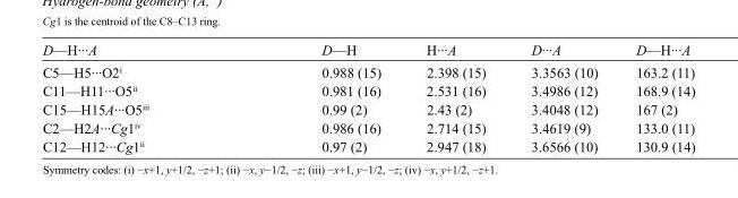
<table><tbody><tr><td>D—H···A</td><td>D—H</td><td>H···A</td><td>D···A</td><td>D—H···A</td></tr><tr><td>C5—H5···O2<sup>i</sup></td><td>0.988 (15)</td><td>2.398 (15)</td><td>3.3563 (10)</td><td>163.2 (11)</td></tr><tr><td>C11—H11···O5<sup>ii</sup></td><td>0.981 (16)</td><td>2.531 (16)</td><td>3.4986 (12)</td><td>168.9 (14)</td></tr><tr><td>C15—H15A···O5<sup>iii</sup></td><td>0.99 (2)</td><td>2.43 (2)</td><td>3.4048 (12)</td><td>167 (2)</td></tr><tr><td>C2—H2A···Cg1<sup>iv</sup></td><td>0.986 (16)</td><td>2.714 (15)</td><td>3.4619 (9)</td><td>133.0 (11)</td></tr><tr><td>C12—H12···Cg1<sup>ii</sup></td><td>0.97 (2)</td><td>2.947 (18)</td><td>3.6566 (10)</td><td>130.9 (14)</td></tr></tbody></table>